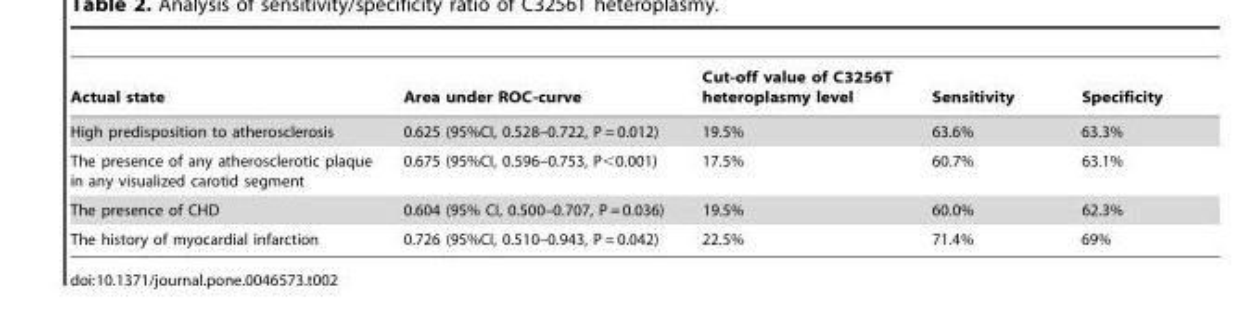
<table><thead><tr><td>Actual state</td><td>Area under ROC-curve</td><td>Cut-off value of C3256T heteroplasmy level</td><td>Sensitivity</td><td>Specificity</td></tr></thead><tbody><tr><td>High predisposition to atherosclerosis</td><td>0.625 (95%CI, 0.528–0.722, P = 0.012)</td><td>19.5%</td><td>63.6%</td><td>63.3%</td></tr><tr><td>The presence of any atherosclerotic plaque in any visualized carotid segment</td><td>0.675 (95%CI, 0.596–0.753, P&lt;0.001)</td><td>17.5%</td><td>60.7%</td><td>63.1%</td></tr><tr><td>The presence of CHD</td><td>0.604 (95% CI, 0.500–0.707, P = 0.036)</td><td>19.5%</td><td>60.0%</td><td>62.3%</td></tr><tr><td>The history of myocardial infarction</td><td>0.726 (95%CI, 0.510–0.943, P = 0.042)</td><td>22.5%</td><td>71.4%</td><td>69%</td></tr></tbody></table>